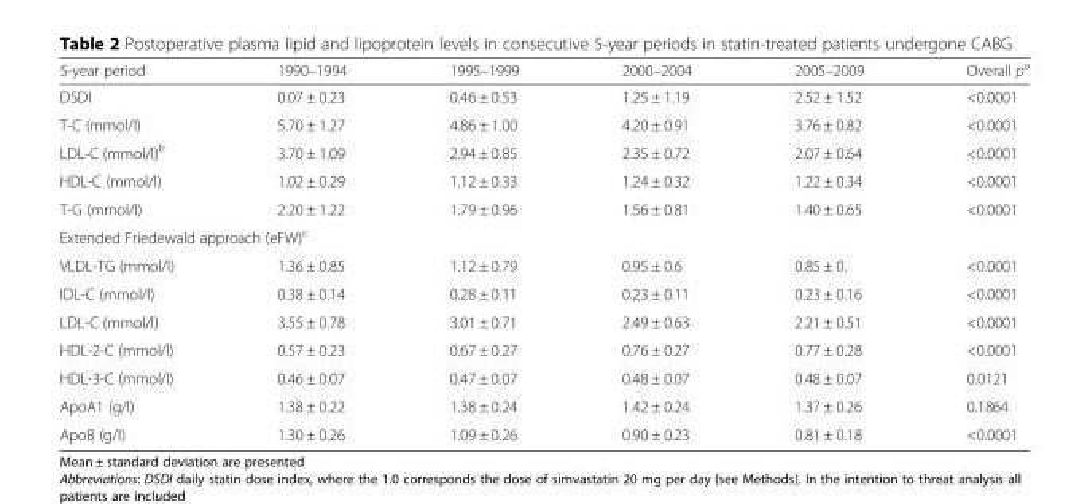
<table><thead><tr><td>5-year period</td><td>1990–1994</td><td>1995–1999</td><td>2000–2004</td><td>2005–2009</td><td>Overall p<sup>a</sup></td></tr></thead><tbody><tr><td>DSDI</td><td>0.07 ± 0.23</td><td>0.46 ± 0.53</td><td>1.25 ± 1.19</td><td>2.52 ± 1.52</td><td>&lt;0.0001</td></tr><tr><td>T-C (mmol/l)</td><td>5.70 ± 1.27</td><td>4.86 ± 1.00</td><td>4.20 ± 0.91</td><td>3.76 ± 0.82</td><td>&lt;0.0001</td></tr><tr><td>LDL-C (mmol/l)<sup>b</sup></td><td>3.70 ± 1.09</td><td>2.94 ± 0.85</td><td>2.35 ± 0.72</td><td>2.07 ± 0.64</td><td>&lt;0.0001</td></tr><tr><td>HDL-C (mmol/l)</td><td>1.02 ± 0.29</td><td>1.12 ± 0.33</td><td>1.24 ± 0.32</td><td>1.22 ± 0.34</td><td>&lt;0.0001</td></tr><tr><td>T-G (mmol/l)</td><td>2.20 ± 1.22</td><td>1.79 ± 0.96</td><td>1.56 ± 0.81</td><td>1.40 ± 0.65</td><td>&lt;0.0001</td></tr><tr><td colspan="6">Extended Friedewald approach (eFW)<sup>c</sup></td></tr><tr><td>VLDL-TG (mmol/l)</td><td>1.36 ± 0.85</td><td>1.12 ± 0.79</td><td>0.95 ± 0.6</td><td>0.85 ± 0.</td><td>&lt;0.0001</td></tr><tr><td>IDL-C (mmol/l)</td><td>0.38 ± 0.14</td><td>0.28 ± 0.11</td><td>0.23 ± 0.11</td><td>0.23 ± 0.16</td><td>&lt;0.0001</td></tr><tr><td>LDL-C (mmol/l)</td><td>3.55 ± 0.78</td><td>3.01 ± 0.71</td><td>2.49 ± 0.63</td><td>2.21 ± 0.51</td><td>&lt;0.0001</td></tr><tr><td>HDL-2-C (mmol/l)</td><td>0.57 ± 0.23</td><td>0.67 ± 0.27</td><td>0.76 ± 0.27</td><td>0.77 ± 0.28</td><td>&lt;0.0001</td></tr><tr><td>HDL-3-C (mmol/l)</td><td>0.46 ± 0.07</td><td>0.47 ± 0.07</td><td>0.48 ± 0.07</td><td>0.48 ± 0.07</td><td>0.0121</td></tr><tr><td>ApoA1 (g/l)</td><td>1.38 ± 0.22</td><td>1.38 ± 0.24</td><td>1.42 ± 0.24</td><td>1.37 ± 0.26</td><td>0.1864</td></tr><tr><td>ApoB (g/l)</td><td>1.30 ± 0.26</td><td>1.09 ± 0.26</td><td>0.90 ± 0.23</td><td>0.81 ± 0.18</td><td>&lt;0.0001</td></tr></tbody></table>